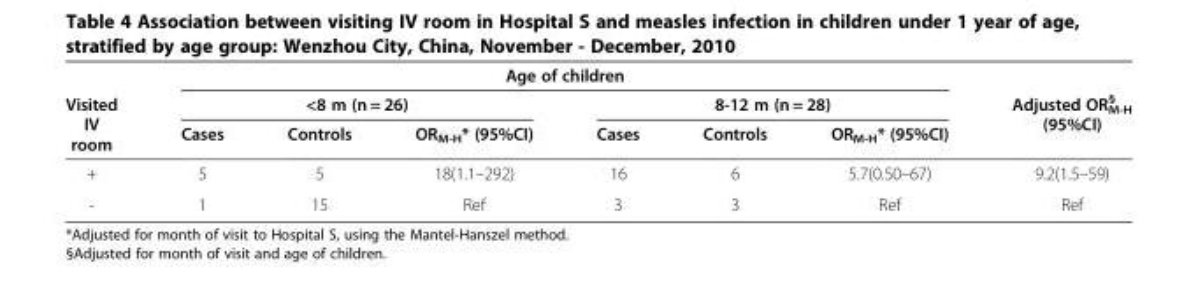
<table><thead><tr><td rowspan="3">Visited IV room</td><td colspan="6">Age of children</td><td rowspan="3">Adjusted OR<sub>M-H</sub> <sup>§</sup> (95%CI)</td></tr><tr><td colspan="3">&lt;8 m (n = 26)</td><td colspan="3">8-12 m (n = 28)</td></tr><tr><td>Cases</td><td>Controls</td><td>OR<sub>M-H</sub>* (95%CI)</td><td>Cases</td><td>Controls</td><td>OR<sub>M-H</sub>* (95%CI)</td></tr></thead><tbody><tr><td>+</td><td>5</td><td>5</td><td>18(1.1–292)</td><td>16</td><td>6</td><td>5.7(0.50–67)</td><td>9.2(1.5–59)</td></tr><tr><td>-</td><td>1</td><td>15</td><td>Ref</td><td>3</td><td>3</td><td>Ref</td><td>Ref</td></tr></tbody></table>